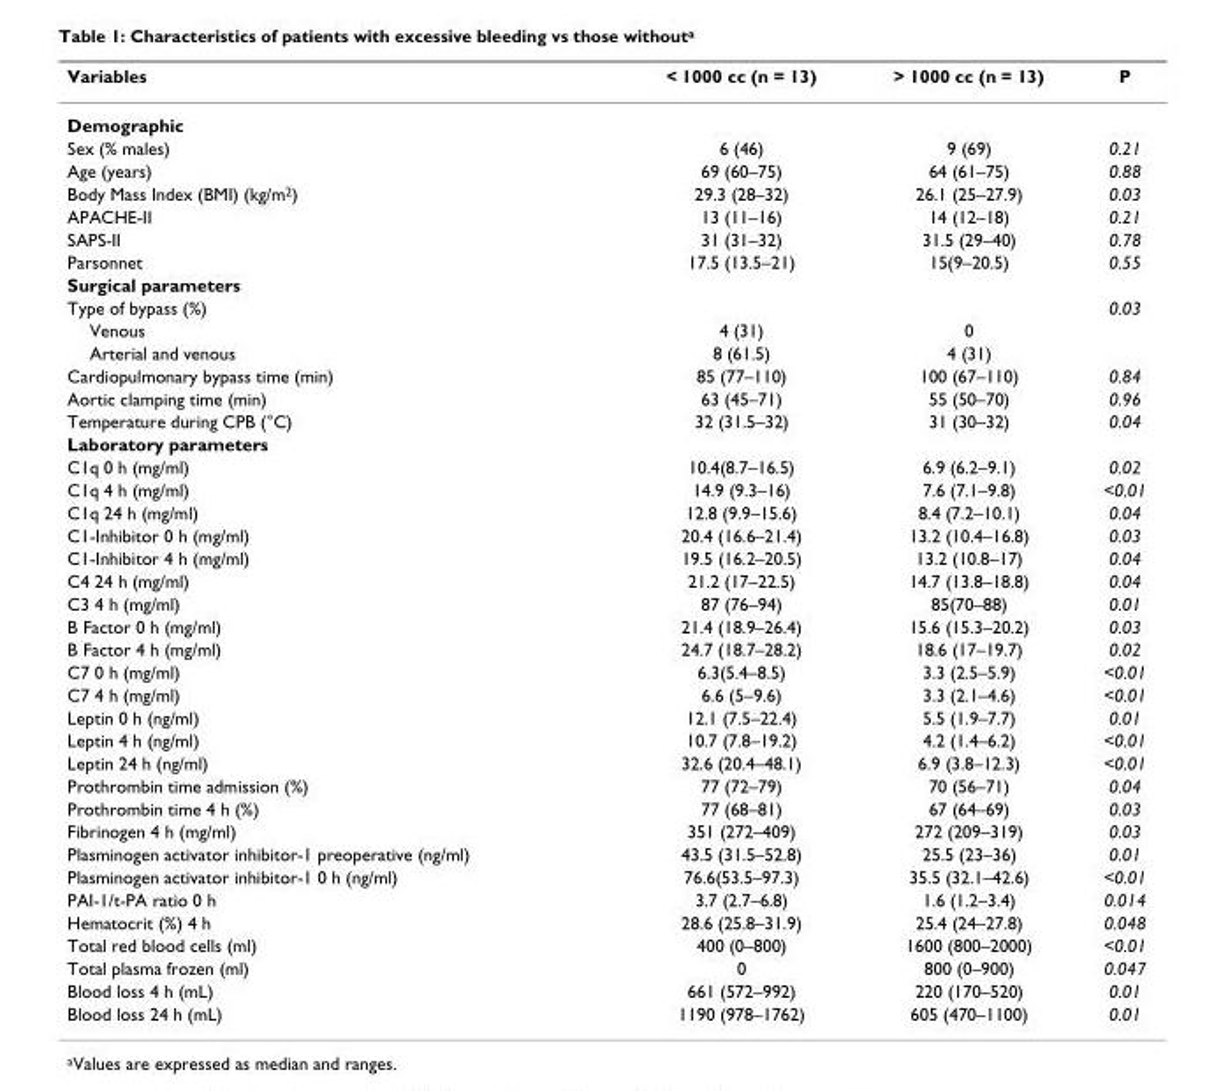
<table><thead><tr><td>Variables</td><td>&lt; 1000 cc (n = 13)</td><td>&gt; 1000 cc (n = 13)</td><td>P</td></tr></thead><tbody><tr><td colspan="4">Demographic</td></tr><tr><td>Sex (% males)</td><td>6 (46)</td><td>9 (69)</td><td>0.21</td></tr><tr><td>Age (years)</td><td>69 (60–75)</td><td>64 (61–75)</td><td>0.88</td></tr><tr><td>Body Mass Index (BMI) (kg/m<sup>2</sup>)</td><td>29.3 (28–32)</td><td>26.1 (25–27.9)</td><td>0.03</td></tr><tr><td>APACHE-II</td><td>13 (11–16)</td><td>14 (12–18)</td><td>0.21</td></tr><tr><td>SAPS-II</td><td>31 (31–32)</td><td>31.5 (29–40)</td><td>0.78</td></tr><tr><td>Parsonnet</td><td>17.5 (13.5–21)</td><td>15(9–20.5)</td><td>0.55</td></tr><tr><td colspan="4">Surgical parameters</td></tr><tr><td>Type of bypass (%)</td><td></td><td></td><td>0.03</td></tr><tr><td>Venous</td><td>4 (31)</td><td>0</td><td></td></tr><tr><td>Arterial and venous</td><td>8 (61.5)</td><td>4 (31)</td><td></td></tr><tr><td>Cardiopulmonary bypass time (min)</td><td>85 (77–110)</td><td>100 (67–110)</td><td>0.84</td></tr><tr><td>Aortic clamping time (min)</td><td>63 (45–71)</td><td>55 (50–70)</td><td>0.96</td></tr><tr><td>Temperature during CPB (°C)</td><td>32 (31.5–32)</td><td>31 (30–32)</td><td>0.04</td></tr><tr><td colspan="4">Laboratory parameters</td></tr><tr><td>C1q 0 h (mg/ml)</td><td>10.4(8.7–16.5)</td><td>6.9 (6.2–9.1)</td><td>0.02</td></tr><tr><td>C1q 4 h (mg/ml)</td><td>14.9 (9.3–16)</td><td>7.6 (7.1–9.8)</td><td>&lt;0.01</td></tr><tr><td>C1q 24 h (mg/ml)</td><td>12.8 (9.9–15.6)</td><td>8.4 (7.2–10.1)</td><td>0.04</td></tr><tr><td>C1-Inhibitor 0 h (mg/ml)</td><td>20.4 (16.6–21.4)</td><td>13.2 (10.4–16.8)</td><td>0.03</td></tr><tr><td>C1-Inhibitor 4 h (mg/ml)</td><td>19.5 (16.2–20.5)</td><td>13.2 (10.8–17)</td><td>0.04</td></tr><tr><td>C4 24 h (mg/ml)</td><td>21.2 (17–22.5)</td><td>14.7 (13.8–18.8)</td><td>0.04</td></tr><tr><td>C3 4 h (mg/ml)</td><td>87 (76–94)</td><td>85(70–88)</td><td>0.01</td></tr><tr><td>B Factor 0 h (mg/ml)</td><td>21.4 (18.9–26.4)</td><td>15.6 (15.3–20.2)</td><td>0.03</td></tr><tr><td>B Factor 4 h (mg/ml)</td><td>24.7 (18.7–28.2)</td><td>18.6 (17–19.7)</td><td>0.02</td></tr><tr><td>C7 0 h (mg/ml)</td><td>6.3(5.4–8.5)</td><td>3.3 (2.5–5.9)</td><td>&lt;0.01</td></tr><tr><td>C7 4 h (mg/ml)</td><td>6.6 (5–9.6)</td><td>3.3 (2.1–4.6)</td><td>&lt;0.01</td></tr><tr><td>Leptin 0 h (ng/ml)</td><td>12.1 (7.5–22.4)</td><td>5.5 (1.9–7.7)</td><td>0.01</td></tr><tr><td>Leptin 4 h (ng/ml)</td><td>10.7 (7.8–19.2)</td><td>4.2 (1.4–6.2)</td><td>&lt;0.01</td></tr><tr><td>Leptin 24 h (ng/ml)</td><td>32.6 (20.4–48.1)</td><td>6.9 (3.8–12.3)</td><td>&lt;0.01</td></tr><tr><td>Prothrombin time admission (%)</td><td>77 (72–79)</td><td>70 (56–71)</td><td>0.04</td></tr><tr><td>Prothrombin time 4 h (%)</td><td>77 (68–81)</td><td>67 (64–69)</td><td>0.03</td></tr><tr><td>Fibrinogen 4 h (mg/ml)</td><td>351 (272–409)</td><td>272 (209–319)</td><td>0.03</td></tr><tr><td>Plasminogen activator inhibitor-1 preoperative (ng/ml)</td><td>43.5 (31.5–52.8)</td><td>25.5 (23–36)</td><td>0.01</td></tr><tr><td>Plasminogen activator inhibitor-1 0 h (ng/ml)</td><td>76.6(53.5–97.3)</td><td>35.5 (32.1–42.6)</td><td>&lt;0.01</td></tr><tr><td>PAI-1/t-PA ratio 0 h</td><td>3.7 (2.7–6.8)</td><td>1.6 (1.2–3.4)</td><td>0.014</td></tr><tr><td>Hematocrit (%) 4 h</td><td>28.6 (25.8–31.9)</td><td>25.4 (24–27.8)</td><td>0.048</td></tr><tr><td>Total red blood cells (ml)</td><td>400 (0–800)</td><td>1600 (800–2000)</td><td>&lt;0.01</td></tr><tr><td>Total plasma frozen (ml)</td><td>0</td><td>800 (0–900)</td><td>0.047</td></tr><tr><td>Blood loss 4 h (mL)</td><td>661 (572–992)</td><td>220 (170–520)</td><td>0.01</td></tr><tr><td>Blood loss 24 h (mL)</td><td>1190 (978–1762)</td><td>605 (470–1100)</td><td>0.01</td></tr></tbody></table>